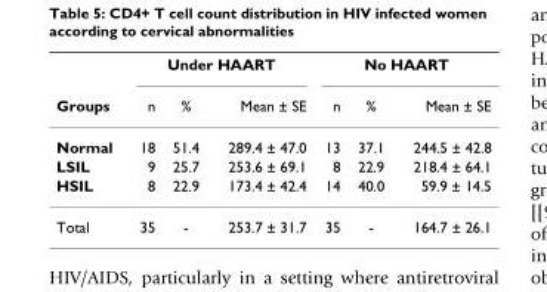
<table><thead><tr><td rowspan="2">Groups</td><td colspan="3">Under HAART</td><td colspan="3">No HAART</td></tr><tr><td>n</td><td>%</td><td>Mean ± SE</td><td>n</td><td>%</td><td>Mean ± SE</td></tr></thead><tbody><tr><td>Normal</td><td>18</td><td>51.4</td><td>289.4 ± 47.0</td><td>13</td><td>37.1</td><td>244.5 ± 42.8</td></tr><tr><td>LSIL</td><td>9</td><td>25.7</td><td>253.6 ± 69.1</td><td>8</td><td>22.9</td><td>218.4 ± 64.1</td></tr><tr><td>HSIL</td><td>8</td><td>22.9</td><td>173.4 ± 42.4</td><td>14</td><td>40.0</td><td>59.9 ± 14.5</td></tr><tr><td>Total</td><td>35</td><td>-</td><td>253.7 ± 31.7</td><td>35</td><td>-</td><td>164.7 ± 26.1</td></tr></tbody></table>